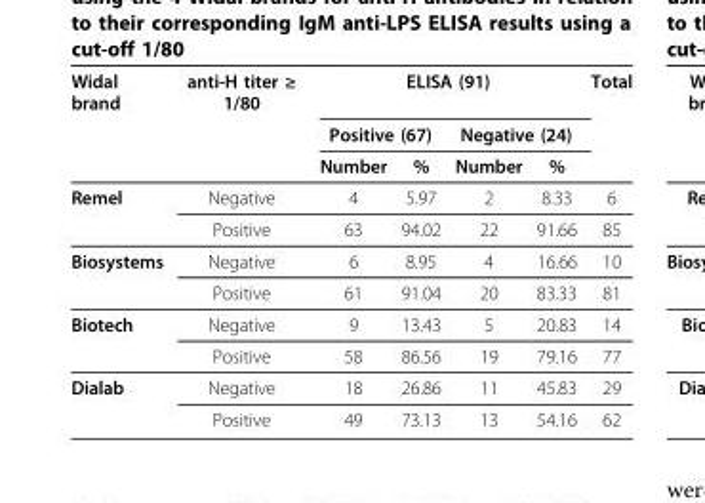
<table><thead><tr><td rowspan="3">Widal brand</td><td rowspan="3">anti-H titer ≥ 1/80</td><td colspan="4">ELISA (91)</td><td rowspan="3">Total</td></tr><tr><td colspan="2">Positive (67)</td><td colspan="2">Negative (24)</td></tr><tr><td>Number</td><td>%</td><td>Number</td><td>%</td></tr></thead><tbody><tr><td rowspan="2">Remel</td><td>Negative</td><td>4</td><td>5.97</td><td>2</td><td>8.33</td><td>6</td></tr><tr><td>Positive</td><td>63</td><td>94.02</td><td>22</td><td>91.66</td><td>85</td></tr><tr><td rowspan="2">Biosystems</td><td>Negative</td><td>6</td><td>8.95</td><td>4</td><td>16.66</td><td>10</td></tr><tr><td>Positive</td><td>61</td><td>91.04</td><td>20</td><td>83.33</td><td>81</td></tr><tr><td rowspan="2">Biotech</td><td>Negative</td><td>9</td><td>13.43</td><td>5</td><td>20.83</td><td>14</td></tr><tr><td>Positive</td><td>58</td><td>86.56</td><td>19</td><td>79.16</td><td>77</td></tr><tr><td rowspan="2">Dialab</td><td>Negative</td><td>18</td><td>26.86</td><td>11</td><td>45.83</td><td>29</td></tr><tr><td>Positive</td><td>49</td><td>73.13</td><td>13</td><td>54.16</td><td>62</td></tr></tbody></table>